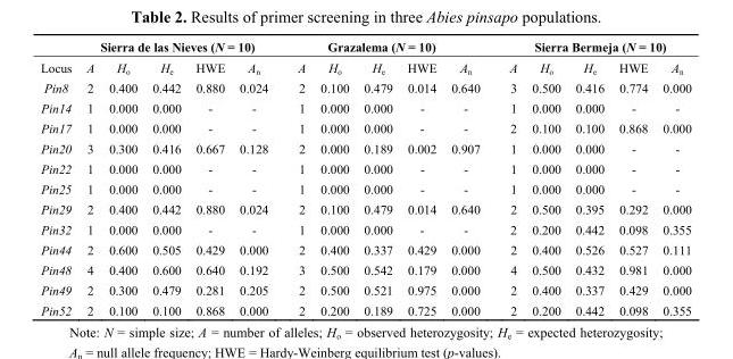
<table><thead><tr><td rowspan="2">Locus</td><td colspan="5">Sierra de las Nieves (N = 10)</td><td colspan="5">Grazalema (N = 10)</td><td colspan="5">Sierra Bermeja (N = 10)</td></tr><tr><td>A</td><td>H<sub>o</sub></td><td>H<sub>e</sub></td><td>HWE</td><td>A<sub>n</sub></td><td>A</td><td>H<sub>o</sub></td><td>H<sub>e</sub></td><td>HWE</td><td>A<sub>n</sub></td><td>A</td><td>H<sub>o</sub></td><td>H<sub>e</sub></td><td>HWE</td><td>A<sub>n</sub></td></tr></thead><tbody><tr><td>Pin8</td><td>2</td><td>0.400</td><td>0.442</td><td>0.880</td><td>0.024</td><td>2</td><td>0.100</td><td>0.479</td><td>0.014</td><td>0.640</td><td>3</td><td>0.500</td><td>0.416</td><td>0.774</td><td>0.000</td></tr><tr><td>Pin14</td><td>1</td><td>0.000</td><td>0.000</td><td>-</td><td>-</td><td>1</td><td>0.000</td><td>0.000</td><td>-</td><td>-</td><td>1</td><td>0.000</td><td>0.000</td><td>-</td><td>-</td></tr><tr><td>Pin17</td><td>1</td><td>0.000</td><td>0.000</td><td>-</td><td>-</td><td>1</td><td>0.000</td><td>0.000</td><td>-</td><td>-</td><td>2</td><td>0.100</td><td>0.100</td><td>0.868</td><td>0.000</td></tr><tr><td>Pin20</td><td>3</td><td>0.300</td><td>0.416</td><td>0.667</td><td>0.128</td><td>2</td><td>0.000</td><td>0.189</td><td>0.002</td><td>0.907</td><td>1</td><td>0.000</td><td>0.000</td><td>-</td><td>-</td></tr><tr><td>Pin22</td><td>1</td><td>0.000</td><td>0.000</td><td>-</td><td>-</td><td>1</td><td>0.000</td><td>0.000</td><td>-</td><td>-</td><td>1</td><td>0.000</td><td>0.000</td><td>-</td><td>-</td></tr><tr><td>Pin25</td><td>1</td><td>0.000</td><td>0.000</td><td>-</td><td>-</td><td>1</td><td>0.000</td><td>0.000</td><td>-</td><td>-</td><td>1</td><td>0.000</td><td>0.000</td><td>-</td><td>-</td></tr><tr><td>Pin29</td><td>2</td><td>0.400</td><td>0.442</td><td>0.880</td><td>0.024</td><td>2</td><td>0.100</td><td>0.479</td><td>0.014</td><td>0.640</td><td>2</td><td>0.500</td><td>0.395</td><td>0.292</td><td>0.000</td></tr><tr><td>Pin32</td><td>1</td><td>0.000</td><td>0.000</td><td>-</td><td>-</td><td>1</td><td>0.000</td><td>0.000</td><td>-</td><td>-</td><td>2</td><td>0.200</td><td>0.442</td><td>0.098</td><td>0.355</td></tr><tr><td>Pin44</td><td>2</td><td>0.600</td><td>0.505</td><td>0.429</td><td>0.000</td><td>2</td><td>0.400</td><td>0.337</td><td>0.429</td><td>0.000</td><td>2</td><td>0.400</td><td>0.526</td><td>0.527</td><td>0.111</td></tr><tr><td>Pin48</td><td>4</td><td>0.400</td><td>0.600</td><td>0.640</td><td>0.192</td><td>3</td><td>0.500</td><td>0.542</td><td>0.179</td><td>0.000</td><td>4</td><td>0.500</td><td>0.432</td><td>0.981</td><td>0.000</td></tr><tr><td>Pin49</td><td>2</td><td>0.300</td><td>0.479</td><td>0.281</td><td>0.205</td><td>2</td><td>0.500</td><td>0.521</td><td>0.975</td><td>0.000</td><td>2</td><td>0.400</td><td>0.337</td><td>0.429</td><td>0.000</td></tr><tr><td>Pin52</td><td>2</td><td>0.100</td><td>0.100</td><td>0.868</td><td>0.000</td><td>2</td><td>0.200</td><td>0.189</td><td>0.725</td><td>0.000</td><td>2</td><td>0.200</td><td>0.442</td><td>0.098</td><td>0.355</td></tr></tbody></table>